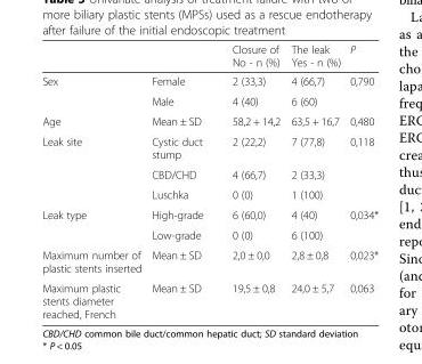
<table><thead><tr><td></td><td></td><td>Closure of No - n (%)</td><td>The leak Yes - n (%)</td><td>P</td></tr></thead><tbody><tr><td rowspan="2">Sex</td><td>Female</td><td>2 (33,3)</td><td>4 (66,7)</td><td>0,790</td></tr><tr><td>Male</td><td>4 (40)</td><td>6 (60)</td><td></td></tr><tr><td>Age</td><td>Mean ± SD</td><td>58,2 + 14,2</td><td>63,5 + 16,7</td><td>0,480</td></tr><tr><td rowspan="3">Leak site</td><td>Cystic duct stump</td><td>2 (22,2)</td><td>7 (77,8)</td><td>0,118</td></tr><tr><td>CBD/CHD</td><td>4 (66,7)</td><td>2 (33,3)</td><td></td></tr><tr><td>Luschka</td><td>0 (0)</td><td>1 (100)</td><td></td></tr><tr><td rowspan="2">Leak type</td><td>High-grade</td><td>6 (60,0)</td><td>4 (40)</td><td>0,034*</td></tr><tr><td>Low-grade</td><td>0 (0)</td><td>6 (100)</td><td></td></tr><tr><td>Maximum number of plastic stents inserted</td><td>Mean ± SD</td><td>2,0 ± 0,0</td><td>2,8 ± 0,8</td><td>0,023*</td></tr><tr><td>Maximum plastic stents diameter reached, French</td><td>Mean ± SD</td><td>19,5 ± 0,8</td><td>24,0 ± 5,7</td><td>0,063</td></tr></tbody></table>